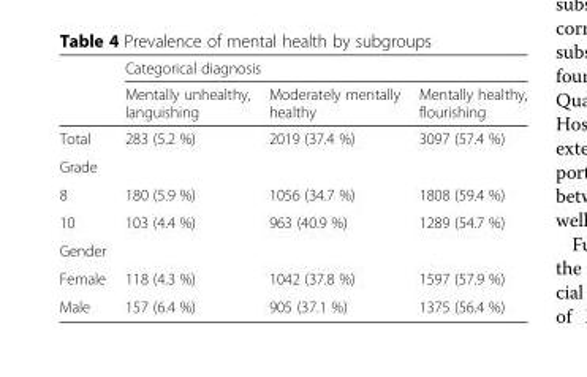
<table><thead><tr><td rowspan="2"></td><td colspan="3">Categorical diagnosis</td></tr><tr><td>Mentally unhealthy, languishing</td><td>Moderately mentally healthy</td><td>Mentally healthy, flourishing</td></tr></thead><tbody><tr><td>Total</td><td>283 (5.2 %)</td><td>2019 (37.4 %)</td><td>3097 (57.4 %)</td></tr><tr><td colspan="4">Grade</td></tr><tr><td>8</td><td>180 (5.9 %)</td><td>1056 (34.7 %)</td><td>1808 (59.4 %)</td></tr><tr><td>10</td><td>103 (4.4 %)</td><td>963 (40.9 %)</td><td>1289 (54.7 %)</td></tr><tr><td colspan="4">Gender</td></tr><tr><td>Female</td><td>118 (4.3 %)</td><td>1042 (37.8 %)</td><td>1597 (57.9 %)</td></tr><tr><td>Male</td><td>157 (6.4 %)</td><td>905 (37.1 %)</td><td>1375 (56.4 %)</td></tr></tbody></table>